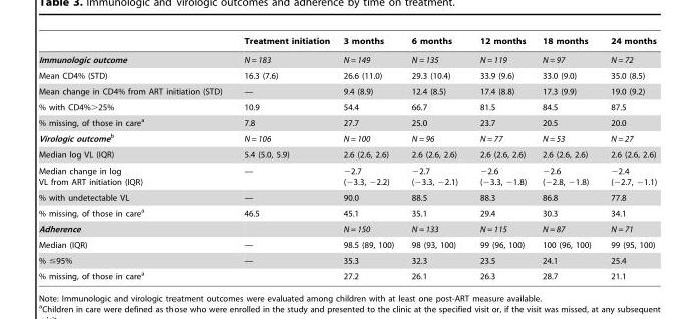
<table><thead><tr><td></td><td>Treatment initiation</td><td>3 months</td><td>6 months</td><td>12 months</td><td>18 months</td><td>24 months</td></tr></thead><tbody><tr><td>Immunologic outcome</td><td>N = 183</td><td>N = 149</td><td>N = 135</td><td>N = 119</td><td>N = 97</td><td>N = 72</td></tr><tr><td>Mean CD4% (STD)</td><td>16.3 (7.6)</td><td>26.6 (11.0)</td><td>29.3 (10.4)</td><td>33.9 (9.6)</td><td>33.0 (9.0)</td><td>35.0 (8.5)</td></tr><tr><td>Mean change in CD4% from ART initiation (STD)</td><td>—</td><td>9.4 (8.9)</td><td>12.4 (8.5)</td><td>17.4 (8.8)</td><td>17.3 (9.9)</td><td>19.0 (9.2)</td></tr><tr><td>% with CD4%&gt;25%</td><td>10.9</td><td>54.4</td><td>66.7</td><td>81.5</td><td>84.5</td><td>87.5</td></tr><tr><td>% missing, of those in care<sup>a</sup></td><td>7.8</td><td>27.7</td><td>25.0</td><td>23.7</td><td>20.5</td><td>20.0</td></tr><tr><td>Virologic outcomeb</td><td>N = 106</td><td>N = 100</td><td>N = 96</td><td>N = 77</td><td>N = 53</td><td>N = 27</td></tr><tr><td>Median log VL (IQR)</td><td>5.4 (5.0, 5.9)</td><td>2.6 (2.6, 2.6)</td><td>2.6 (2.6, 2.6)</td><td>2.6 (2.6, 2.6)</td><td>2.6 (2.6, 2.6)</td><td>2.6 (2.6, 2.6)</td></tr><tr><td>Median change in log VL from ART initiation (IQR)</td><td>—</td><td>−2.7 (−3.3, −2.2)</td><td>−2.7 (−3.3, −2.1)</td><td>−2.6 (−3.3, −1.8)</td><td>−2.6 (−2.8, −1.8)</td><td>−2.4 (−2.7, −1.1)</td></tr><tr><td>% with undetectable VL</td><td>—</td><td>90.0</td><td>88.5</td><td>88.3</td><td>86.8</td><td>77.8</td></tr><tr><td>% missing, of those in care<sup>a</sup></td><td>46.5</td><td>45.1</td><td>35.1</td><td>29.4</td><td>30.3</td><td>34.1</td></tr><tr><td>Adherence</td><td></td><td>N = 150</td><td>N = 133</td><td>N = 115</td><td>N = 87</td><td>N = 71</td></tr><tr><td>Median (IQR)</td><td>—</td><td>98.5 (89, 100)</td><td>98 (93, 100)</td><td>99 (96, 100)</td><td>100 (96, 100)</td><td>99 (95, 100)</td></tr><tr><td>% ≤95%</td><td>—</td><td>35.3</td><td>32.3</td><td>23.5</td><td>24.1</td><td>25.4</td></tr><tr><td>% missing, of those in care<sup>a</sup></td><td></td><td>27.2</td><td>26.1</td><td>26.3</td><td>28.7</td><td>21.1</td></tr></tbody></table>